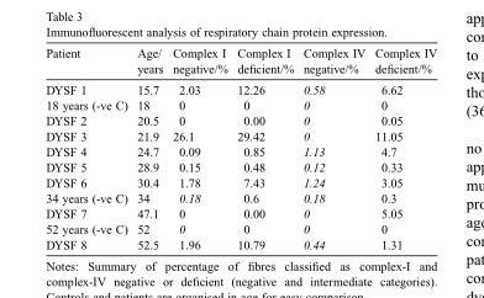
<table><thead><tr><td>Patient</td><td>Age/ years</td><td>Complex I negative/%</td><td>Complex I deficient/%</td><td>Complex IV negative/%</td><td>Complex IV deficient/%</td></tr></thead><tbody><tr><td>DYSF 1</td><td>15.7</td><td>2.03</td><td>12.26</td><td>0.58</td><td>6.62</td></tr><tr><td>18 years (-ve C)</td><td>18</td><td>0</td><td>0</td><td>0</td><td>0</td></tr><tr><td>DYSF 2</td><td>20.5</td><td>0</td><td>0.00</td><td>0</td><td>0.05</td></tr><tr><td>DYSF 3</td><td>21.9</td><td>26.1</td><td>29.42</td><td>0</td><td>11.05</td></tr><tr><td>DYSF 4</td><td>24.7</td><td>0.09</td><td>0.85</td><td>1.13</td><td>4.7</td></tr><tr><td>DYSF 5</td><td>28.9</td><td>0.15</td><td>0.48</td><td>0.12</td><td>0.33</td></tr><tr><td>DYSF 6</td><td>30.4</td><td>1.78</td><td>7.43</td><td>1.24</td><td>3.05</td></tr><tr><td>34 years (-ve C)</td><td>34</td><td>0.18</td><td>0.6</td><td>0.18</td><td>0.3</td></tr><tr><td>DYSF 7</td><td>47.1</td><td>0</td><td>0.00</td><td>0</td><td>5.05</td></tr><tr><td>52 years (-ve C)</td><td>52</td><td>0</td><td>0</td><td>0</td><td>0</td></tr><tr><td>DYSF 8</td><td>52.5</td><td>1.96</td><td>10.79</td><td>0.44</td><td>1.31</td></tr></tbody></table>